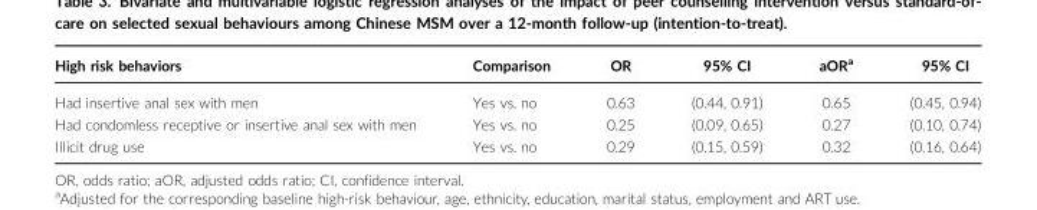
<table><thead><tr><td>High risk behaviors</td><td>Comparison</td><td>OR</td><td>95% CI</td><td>aOR<sup>a</sup></td><td>95% CI</td></tr></thead><tbody><tr><td>Had insertive anal sex with men</td><td>Yes vs. no</td><td>0.63</td><td>(0.44, 0.91)</td><td>0.65</td><td>(0.45, 0.94)</td></tr><tr><td>Had condomless receptive or insertive anal sex with men</td><td>Yes vs. no</td><td>0.25</td><td>(0.09, 0.65)</td><td>0.27</td><td>(0.10, 0.74)</td></tr><tr><td>Illicit drug use</td><td>Yes vs. no</td><td>0.29</td><td>(0.15, 0.59)</td><td>0.32</td><td>(0.16, 0.64)</td></tr></tbody></table>